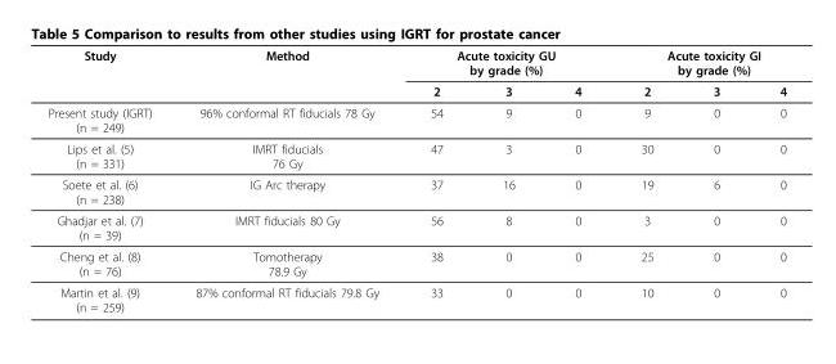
<table><thead><tr><td rowspan="2">Study</td><td rowspan="2">Method</td><td colspan="3">Acute toxicity GU by grade (%)</td><td colspan="3">Acute toxicity GI by grade (%)</td></tr><tr><td>2</td><td>3</td><td>4</td><td>2</td><td>3</td><td>4</td></tr></thead><tbody><tr><td>Present study (IGRT) (n = 249)</td><td>96% conformal RT fiducials 78 Gy</td><td>54</td><td>9</td><td>0</td><td>9</td><td>0</td><td>0</td></tr><tr><td>Lips et al. (5) (n = 331)</td><td>IMRT fiducials 76 Gy</td><td>47</td><td>3</td><td>0</td><td>30</td><td>0</td><td>0</td></tr><tr><td>Soete et al. (6) (n = 238)</td><td>IG Arc therapy</td><td>37</td><td>16</td><td>0</td><td>19</td><td>6</td><td>0</td></tr><tr><td>Ghadjar et al. (7) (n = 39)</td><td>IMRT fiducials 80 Gy</td><td>56</td><td>8</td><td>0</td><td>3</td><td>0</td><td>0</td></tr><tr><td>Cheng et al. (8) (n = 76)</td><td>Tomotherapy 78.9 Gy</td><td>38</td><td>0</td><td>0</td><td>25</td><td>0</td><td>0</td></tr><tr><td>Martin et al. (9) (n = 259)</td><td>87% conformal RT fiducials 79.8 Gy</td><td>33</td><td>0</td><td>0</td><td>10</td><td>0</td><td>0</td></tr></tbody></table>